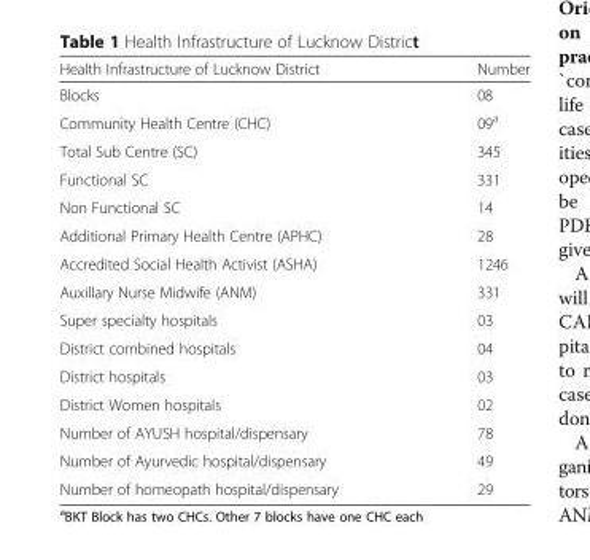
<table><thead><tr><td>Health Infrastructure of Lucknow District</td><td>Number</td></tr></thead><tbody><tr><td>Blocks</td><td>08</td></tr><tr><td>Community Health Centre (CHC)</td><td>09<sup>a</sup></td></tr><tr><td>Total Sub Centre (SC)</td><td>345</td></tr><tr><td>Functional SC</td><td>331</td></tr><tr><td>Non Functional SC</td><td>14</td></tr><tr><td>Additional Primary Health Centre (APHC)</td><td>28</td></tr><tr><td>Accredited Social Health Activist (ASHA)</td><td>1246</td></tr><tr><td>Auxillary Nurse Midwife (ANM)</td><td>331</td></tr><tr><td>Super specialty hospitals</td><td>03</td></tr><tr><td>District combined hospitals</td><td>04</td></tr><tr><td>District hospitals</td><td>03</td></tr><tr><td>District Women hospitals</td><td>02</td></tr><tr><td>Number of AYUSH hospital/dispensary</td><td>78</td></tr><tr><td>Number of Ayurvedic hospital/dispensary</td><td>49</td></tr><tr><td>Number of homeopath hospital/dispensary</td><td>29</td></tr></tbody></table>